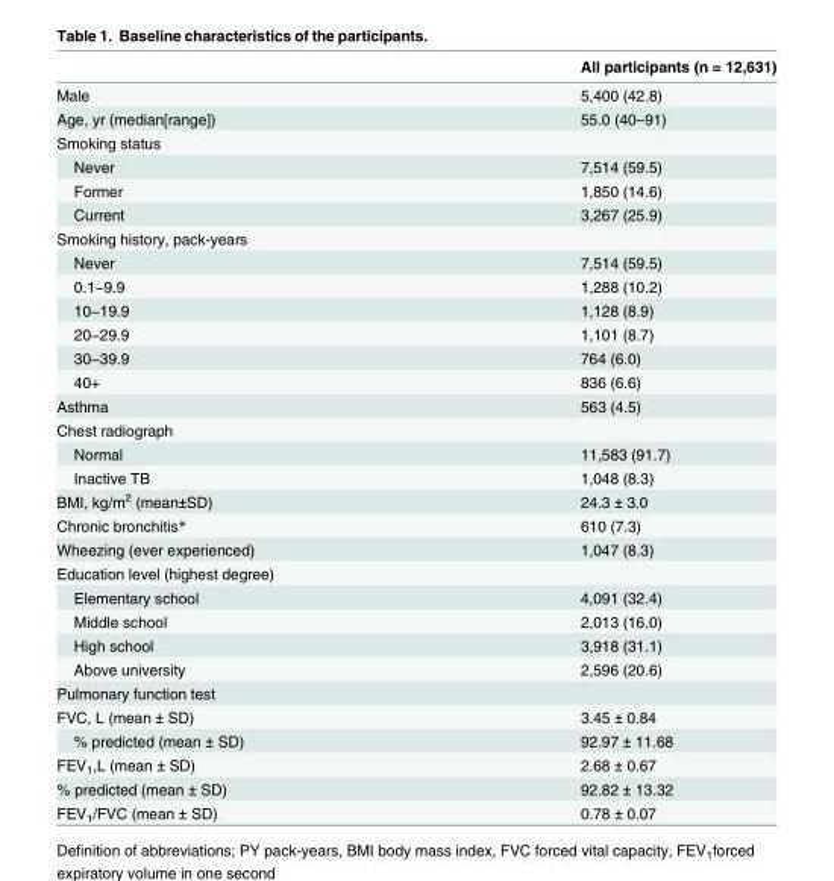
<table><thead><tr><td></td><td>All participants (n = 12,631)</td></tr></thead><tbody><tr><td>Male</td><td>5,400 (42.8)</td></tr><tr><td>Age, yr (median[range])</td><td>55.0 (40–91)</td></tr><tr><td colspan="2">Smoking status</td></tr><tr><td>Never</td><td>7,514 (59.5)</td></tr><tr><td>Former</td><td>1,850 (14.6)</td></tr><tr><td>Current</td><td>3,267 (25.9)</td></tr><tr><td colspan="2">Smoking history, pack-years</td></tr><tr><td>Never</td><td>7,514 (59.5)</td></tr><tr><td>0.1−9.9</td><td>1,288 (10.2)</td></tr><tr><td>10−19.9</td><td>1,128 (8.9)</td></tr><tr><td>20−29.9</td><td>1,101 (8.7)</td></tr><tr><td>30−39.9</td><td>764 (6.0)</td></tr><tr><td>40+</td><td>836 (6.6)</td></tr><tr><td>Asthma</td><td>563 (4.5)</td></tr><tr><td colspan="2">Chest radiograph</td></tr><tr><td>Normal</td><td>11,583 (91.7)</td></tr><tr><td>Inactive TB</td><td>1,048 (8.3)</td></tr><tr><td>BMI, kg/m<sup>2</sup> (mean±SD)</td><td>24.3 ± 3.0</td></tr><tr><td>Chronic bronchitis*</td><td>610 (7.3)</td></tr><tr><td>Wheezing (ever experienced)</td><td>1,047 (8.3)</td></tr><tr><td colspan="2">Education level (highest degree)</td></tr><tr><td>Elementary school</td><td>4,091 (32.4)</td></tr><tr><td>Middle school</td><td>2,013 (16.0)</td></tr><tr><td>High school</td><td>3,918 (31.1)</td></tr><tr><td>Above university</td><td>2,596 (20.6)</td></tr><tr><td colspan="2">Pulmonary function test</td></tr><tr><td>FVC, L (mean ± SD)</td><td>3.45 ± 0.84</td></tr><tr><td>% predicted (mean ± SD)</td><td>92.97 ± 11.68</td></tr><tr><td>FEV<sub>1</sub>,L (mean ± SD)</td><td>2.68 ± 0.67</td></tr><tr><td>% predicted (mean ± SD)</td><td>92.82 ± 13.32</td></tr><tr><td>FEV<sub>1</sub>/FVC (mean ± SD)</td><td>0.78 ± 0.07</td></tr></tbody></table>